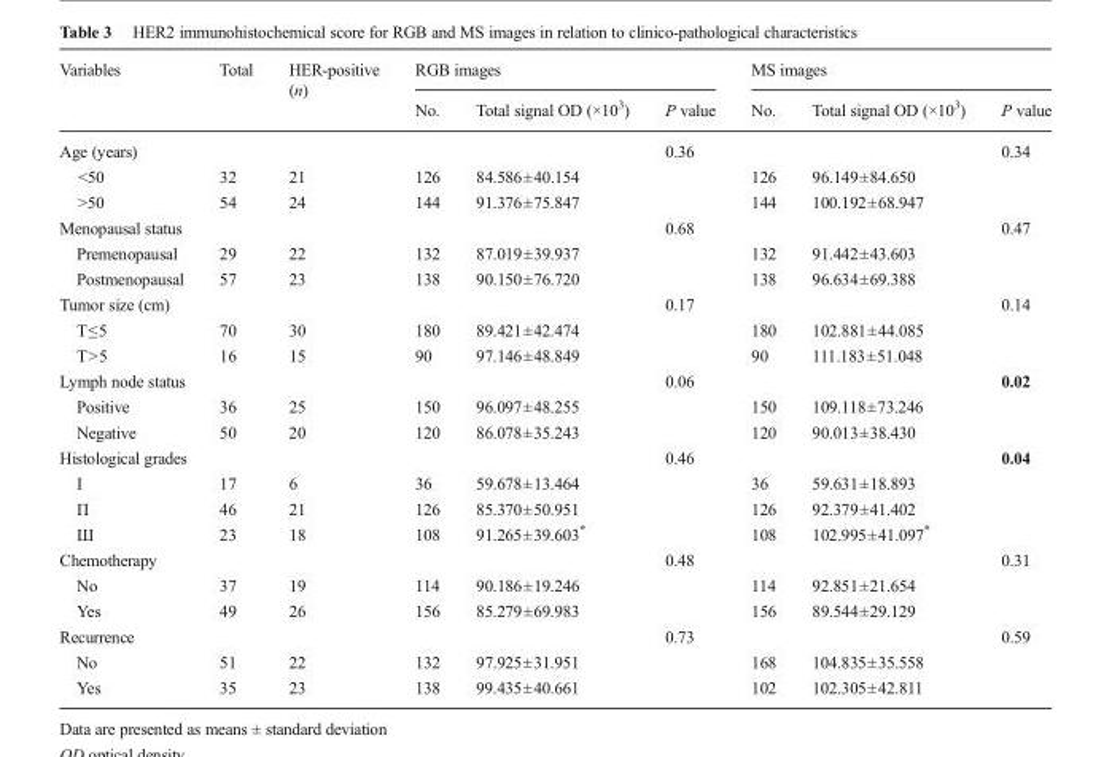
<table><thead><tr><td rowspan="2">Variables</td><td rowspan="2">Total</td><td rowspan="2">HER-positive (n)</td><td colspan="3">RGB images</td><td colspan="3">MS images</td></tr><tr><td>No.</td><td>Total signal OD (×10<sup>3</sup>)</td><td>P value</td><td>No.</td><td>Total signal OD (×10<sup>3</sup>)</td><td>P value</td></tr></thead><tbody><tr><td colspan="5">Age (years)</td><td>0.36</td><td></td><td></td><td>0.34</td></tr><tr><td>&lt;50</td><td>32</td><td>21</td><td>126</td><td>84.586±40.154</td><td></td><td>126</td><td>96.149±84.650</td><td></td></tr><tr><td>&gt;50</td><td>54</td><td>24</td><td>144</td><td>91.376±75.847</td><td></td><td>144</td><td>100.192±68.947</td><td></td></tr><tr><td colspan="5">Menopausal status</td><td>0.68</td><td></td><td></td><td>0.47</td></tr><tr><td>Premenopausal</td><td>29</td><td>22</td><td>132</td><td>87.019±39.937</td><td></td><td>132</td><td>91.442±43.603</td><td></td></tr><tr><td>Postmenopausal</td><td>57</td><td>23</td><td>138</td><td>90.150±76.720</td><td></td><td>138</td><td>96.634±69.388</td><td></td></tr><tr><td colspan="5">Tumor size (cm)</td><td>0.17</td><td></td><td></td><td>0.14</td></tr><tr><td>T≤5</td><td>70</td><td>30</td><td>180</td><td>89.421±42.474</td><td></td><td>180</td><td>102.881±44.085</td><td></td></tr><tr><td>T&gt;5</td><td>16</td><td>15</td><td>90</td><td>97.146±48.849</td><td></td><td>90</td><td>111.183±51.048</td><td></td></tr><tr><td colspan="5">Lymph node status</td><td>0.06</td><td></td><td></td><td>0.02</td></tr><tr><td>Positive</td><td>36</td><td>25</td><td>150</td><td>96.097±48.255</td><td></td><td>150</td><td>109.118±73.246</td><td></td></tr><tr><td>Negative</td><td>50</td><td>20</td><td>120</td><td>86.078±35.243</td><td></td><td>120</td><td>90.013±38.430</td><td></td></tr><tr><td colspan="5">Histological grades</td><td>0.46</td><td></td><td></td><td>0.04</td></tr><tr><td>І</td><td>17</td><td>6</td><td>36</td><td>59.678±13.464</td><td></td><td>36</td><td>59.631±18.893</td><td></td></tr><tr><td>П</td><td>46</td><td>21</td><td>126</td><td>85.370±50.951</td><td></td><td>126</td><td>92.379±41.402</td><td></td></tr><tr><td>Ш</td><td>23</td><td>18</td><td>108</td><td>91.265±39.603*</td><td></td><td>108</td><td>102.995±41.097*</td><td></td></tr><tr><td colspan="5">Chemotherapy</td><td>0.48</td><td></td><td></td><td>0.31</td></tr><tr><td>No</td><td>37</td><td>19</td><td>114</td><td>90.186±19.246</td><td></td><td>114</td><td>92.851±21.654</td><td></td></tr><tr><td>Yes</td><td>49</td><td>26</td><td>156</td><td>85.279±69.983</td><td></td><td>156</td><td>89.544±29.129</td><td></td></tr><tr><td colspan="5">Recurrence</td><td>0.73</td><td></td><td></td><td>0.59</td></tr><tr><td>No</td><td>51</td><td>22</td><td>132</td><td>97.925±31.951</td><td></td><td>168</td><td>104.835±35.558</td><td></td></tr><tr><td>Yes</td><td>35</td><td>23</td><td>138</td><td>99.435±40.661</td><td></td><td>102</td><td>102.305±42.811</td><td></td></tr></tbody></table>